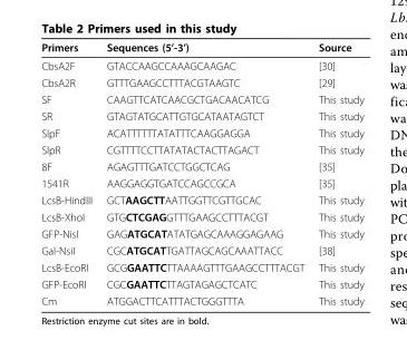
<table><thead><tr><td>Primers</td><td>Sequences (5’-3’)</td><td>Source</td></tr></thead><tbody><tr><td>CbsA2F</td><td>GTACCAAGCCAAAGCAAGAC</td><td>[30]</td></tr><tr><td>CbsA2R</td><td>GTTTGAAGCCTTTACGTAAGTC</td><td>[29]</td></tr><tr><td>SF</td><td>CAAGTTCATCAACGCTGACAACATCG</td><td>This study</td></tr><tr><td>SR</td><td>GTAGTATGCATTGTGCATAATAGTCT</td><td>This study</td></tr><tr><td>SlpF</td><td>ACATTTTTTATATTTCAAGGAGGA</td><td>This study</td></tr><tr><td>SlpR</td><td>CGTTTTCCTTATATACTACTTAGACT</td><td>This study</td></tr><tr><td>8F</td><td>AGAGTTTGATCCTGGCTCAG</td><td>[35]</td></tr><tr><td>1541R</td><td>AAGGAGGTGATCCAGCCGCA</td><td>[35]</td></tr><tr><td>LcsB-HindIII</td><td>GCTAAGCTTAATTGGTTCGTTGCAC</td><td>This study</td></tr><tr><td>LcsB-XhoI</td><td>GTGCTCGAGGTTTGAAGCCTTTACGT</td><td>This study</td></tr><tr><td>GFP-NisI</td><td>GAGATGCATATATGAGCAAAGGAGAAG</td><td>This study</td></tr><tr><td>Gal-NsiI</td><td>CGCATGCATTGATTAGCAGCAAATTACC</td><td>[38]</td></tr><tr><td>LcsB-EcoRI</td><td>GCGGAATTCTTAAAAGTTTGAAGCCTTTACGT</td><td>This study</td></tr><tr><td>GFP-EcoRI</td><td>CGCGAATTCTTAGTAGAGCTCATC</td><td>This study</td></tr><tr><td>Cm</td><td>ATGGACTTCATTTACTGGGTTTA</td><td>This study</td></tr></tbody></table>